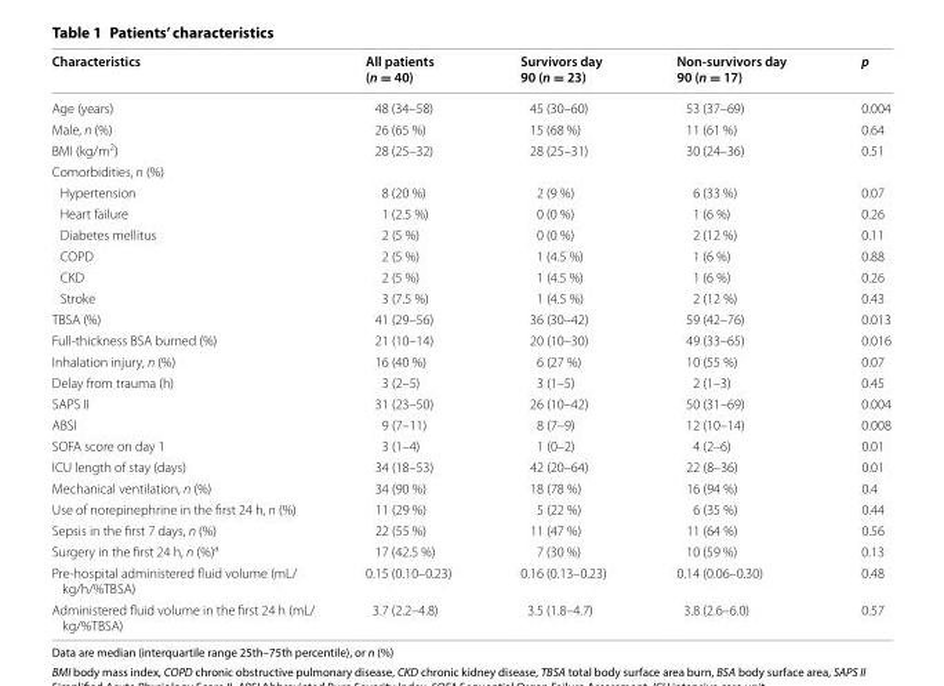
<table><thead><tr><td>Characteristics</td><td>All patients (n = 40)</td><td>Survivors day 90 (n = 23)</td><td>Non-survivors day 90 (n = 17)</td><td>p</td></tr></thead><tbody><tr><td>Age (years)</td><td>48 (34–58)</td><td>45 (30–60)</td><td>53 (37–69)</td><td>0.004</td></tr><tr><td>Male, n (%)</td><td>26 (65 %)</td><td>15 (68 %)</td><td>11 (61 %)</td><td>0.64</td></tr><tr><td>BMI (kg/m<sup>2</sup>)</td><td>28 (25–32)</td><td>28 (25–31)</td><td>30 (24–36)</td><td>0.51</td></tr><tr><td colspan="5">Comorbidities, n (%)</td></tr><tr><td>Hypertension</td><td>8 (20 %)</td><td>2 (9 %)</td><td>6 (33 %)</td><td>0.07</td></tr><tr><td>Heart failure</td><td>1 (2.5 %)</td><td>0 (0 %)</td><td>1 (6 %)</td><td>0.26</td></tr><tr><td>Diabetes mellitus</td><td>2 (5 %)</td><td>0 (0 %)</td><td>2 (12 %)</td><td>0.11</td></tr><tr><td>COPD</td><td>2 (5 %)</td><td>1 (4.5 %)</td><td>1 (6 %)</td><td>0.88</td></tr><tr><td>CKD</td><td>2 (5 %)</td><td>1 (4.5 %)</td><td>1 (6 %)</td><td>0.26</td></tr><tr><td>Stroke</td><td>3 (7.5 %)</td><td>1 (4.5 %)</td><td>2 (12 %)</td><td>0.43</td></tr><tr><td>TBSA (%)</td><td>41 (29–56)</td><td>36 (30–42)</td><td>59 (42–76)</td><td>0.013</td></tr><tr><td>Full-thickness BSA burned (%)</td><td>21 (10–14)</td><td>20 (10–30)</td><td>49 (33–65)</td><td>0.016</td></tr><tr><td>Inhalation injury, n (%)</td><td>16 (40 %)</td><td>6 (27 %)</td><td>10 (55 %)</td><td>0.07</td></tr><tr><td>Delay from trauma (h)</td><td>3 (2–5)</td><td>3 (1–5)</td><td>2 (1–3)</td><td>0.45</td></tr><tr><td>SAPS II</td><td>31 (23–50)</td><td>26 (10–42)</td><td>50 (31–69)</td><td>0.004</td></tr><tr><td>ABSI</td><td>9 (7–11)</td><td>8 (7–9)</td><td>12 (10–14)</td><td>0.008</td></tr><tr><td>SOFA score on day 1</td><td>3 (1–4)</td><td>1 (0–2)</td><td>4 (2–6)</td><td>0.01</td></tr><tr><td>ICU length of stay (days)</td><td>34 (18–53)</td><td>42 (20–64)</td><td>22 (8–36)</td><td>0.01</td></tr><tr><td>Mechanical ventilation, n (%)</td><td>34 (90 %)</td><td>18 (78 %)</td><td>16 (94 %)</td><td>0.4</td></tr><tr><td>Use of norepinephrine in the first 24 h, n (%)</td><td>11 (29 %)</td><td>5 (22 %)</td><td>6 (35 %)</td><td>0.44</td></tr><tr><td>Sepsis in the first 7 days, n (%)</td><td>22 (55 %)</td><td>11 (47 %)</td><td>11 (64 %)</td><td>0.56</td></tr><tr><td>Surgery in the first 24 h, n (%)<sup>a</sup></td><td>17 (42.5 %)</td><td>7 (30 %)</td><td>10 (59 %)</td><td>0.13</td></tr><tr><td>Pre-hospital administered fluid volume (mL/ kg/h/%TBSA)</td><td>0.15 (0.10–0.23)</td><td>0.16 (0.13–0.23)</td><td>0.14 (0.06–0.30)</td><td>0.48</td></tr><tr><td>Administered fluid volume in the first 24 h (mL/ kg/%TBSA)</td><td>3.7 (2.2–4.8)</td><td>3.5 (1.8–4.7)</td><td>3.8 (2.6–6.0)</td><td>0.57</td></tr></tbody></table>